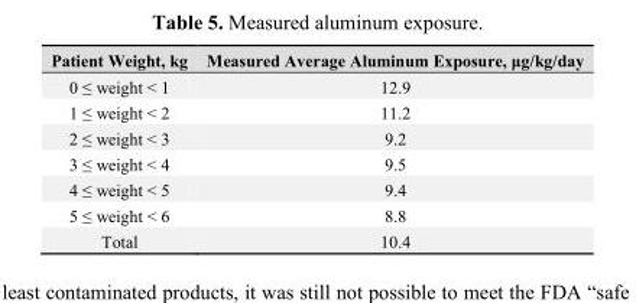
<table><thead><tr><td>Patient Weight, kg</td><td>Measured Average Aluminum Exposure, μg/kg/day</td></tr></thead><tbody><tr><td>0 ≤ weight &lt; 1</td><td>12.9</td></tr><tr><td>1 ≤ weight &lt; 2</td><td>11.2</td></tr><tr><td>2 ≤ weight &lt; 3</td><td>9.2</td></tr><tr><td>3 ≤ weight &lt; 4</td><td>9.5</td></tr><tr><td>4 ≤ weight &lt; 5</td><td>9.4</td></tr><tr><td>5 ≤ weight &lt; 6</td><td>8.8</td></tr><tr><td>Total</td><td>10.4</td></tr></tbody></table>